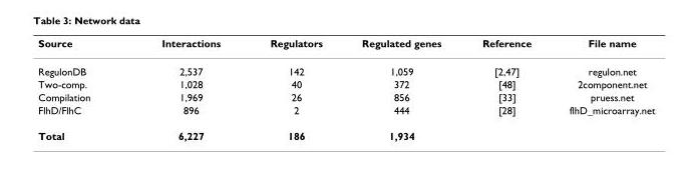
<table><thead><tr><td>Source</td><td>Interactions</td><td>Regulators</td><td>Regulated genes</td><td>Reference</td><td>File name</td></tr></thead><tbody><tr><td>RegulonDB</td><td>2,537</td><td>142</td><td>1,059</td><td>[2,47]</td><td>regulon.net</td></tr><tr><td>Two-comp.</td><td>1,028</td><td>40</td><td>372</td><td>[48]</td><td>2component.net</td></tr><tr><td>Compilation</td><td>1,969</td><td>26</td><td>856</td><td>[33]</td><td>pruess.net</td></tr><tr><td>FlhD/FlhC</td><td>896</td><td>2</td><td>444</td><td>[28]</td><td>flhD_microarray.net</td></tr><tr><td>Total</td><td>6,227</td><td>186</td><td>1,934</td><td></td><td></td></tr></tbody></table>